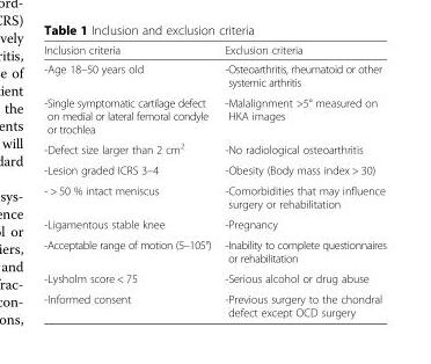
<table><thead><tr><td>Inclusion criteria</td><td>Exclusion criteria</td></tr></thead><tbody><tr><td>-Age 18–50 years old</td><td>-Osteoarthritis, rheumatoid or other systemic arthritis</td></tr><tr><td>-Single symptomatic cartilage defect on medial or lateral femoral condyle or trochlea</td><td>-Malalignment &gt;5° measured on HKA images</td></tr><tr><td>-Defect size larger than 2 cm<sup>2</sup></td><td>-No radiological osteoarthritis</td></tr><tr><td>-Lesion graded ICRS 3–4</td><td>-Obesity (Body mass index &gt; 30)</td></tr><tr><td>- &gt; 50 % intact meniscus</td><td>-Comorbidities that may influence surgery or rehabilitation</td></tr><tr><td>-Ligamentous stable knee</td><td>-Pregnancy</td></tr><tr><td>-Acceptable range of motion (5–105°)</td><td>-Inability to complete questionnaires or rehabilitation</td></tr><tr><td>-Lysholm score &lt; 75</td><td>-Serious alcohol or drug abuse</td></tr><tr><td>-Informed consent</td><td>-Previous surgery to the chondral defect except OCD surgery</td></tr></tbody></table>